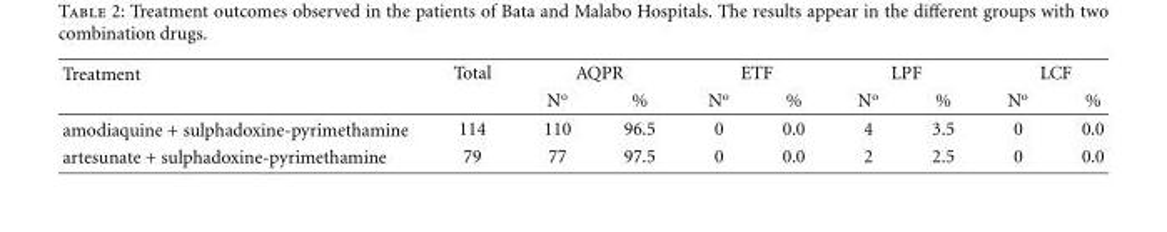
<table><thead><tr><td rowspan="2">Treatment</td><td rowspan="2">Total</td><td colspan="2">AQPR</td><td colspan="2">ETF</td><td colspan="2">LPF</td><td colspan="2">LCF</td></tr><tr><td>No</td><td>%</td><td>No</td><td>%</td><td>No</td><td>%</td><td>No</td><td>%</td></tr></thead><tbody><tr><td>amodiaquine + sulphadoxine-pyrimethamine</td><td>114</td><td>110</td><td>96.5</td><td>0</td><td>0.0</td><td>4</td><td>3.5</td><td>0</td><td>0.0</td></tr><tr><td>artesunate + sulphadoxine-pyrimethamine</td><td>79</td><td>77</td><td>97.5</td><td>0</td><td>0.0</td><td>2</td><td>2.5</td><td>0</td><td>0.0</td></tr></tbody></table>